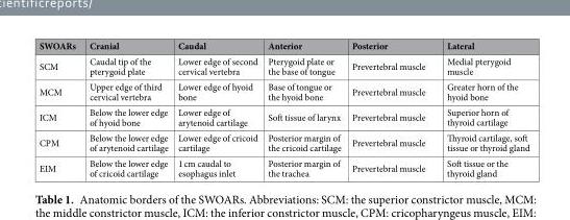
<table><thead><tr><td>SWOARs</td><td>Cranial</td><td>Caudal</td><td>Anterior</td><td>Posterior</td><td>Lateral</td></tr></thead><tbody><tr><td>SCM</td><td>Caudal tip of the pterygoid plate</td><td>Lower edge of second cervical vertebra</td><td>Pterygoid plate or the base of tongue</td><td>Prevertebral muscle</td><td>Medial pterygoid muscle</td></tr><tr><td>MCM</td><td>Upper edge of third cervical vertebra</td><td>Lower edge of hyoid bone</td><td>Base of tongue or the hyoid bone</td><td>Prevertebral muscle</td><td>Greater horn of the hyoid bone</td></tr><tr><td>ICM</td><td>Below the lower edge of hyoid bone</td><td>Lower edge of arytenoid cartilage</td><td>Soft tissue of larynx</td><td>Prevertebral muscle</td><td>Superior horn of thyroid cartilage</td></tr><tr><td>CPM</td><td>Below the lower edge of arytenoid cartilage</td><td>Lower edge of cricoid cartilage</td><td>Posterior margin of the cricoid cartilage</td><td>Prevertebral muscle</td><td>Thyroid cartilage, soft tissue or thyroid gland</td></tr><tr><td>EIM</td><td>Below the lower edge of cricoid cartilage</td><td>1 cm caudal to esophagus inlet</td><td>Posterior margin of the trachea</td><td>Prevertebral muscle</td><td>Soft tissue or the thyroid gland</td></tr></tbody></table>